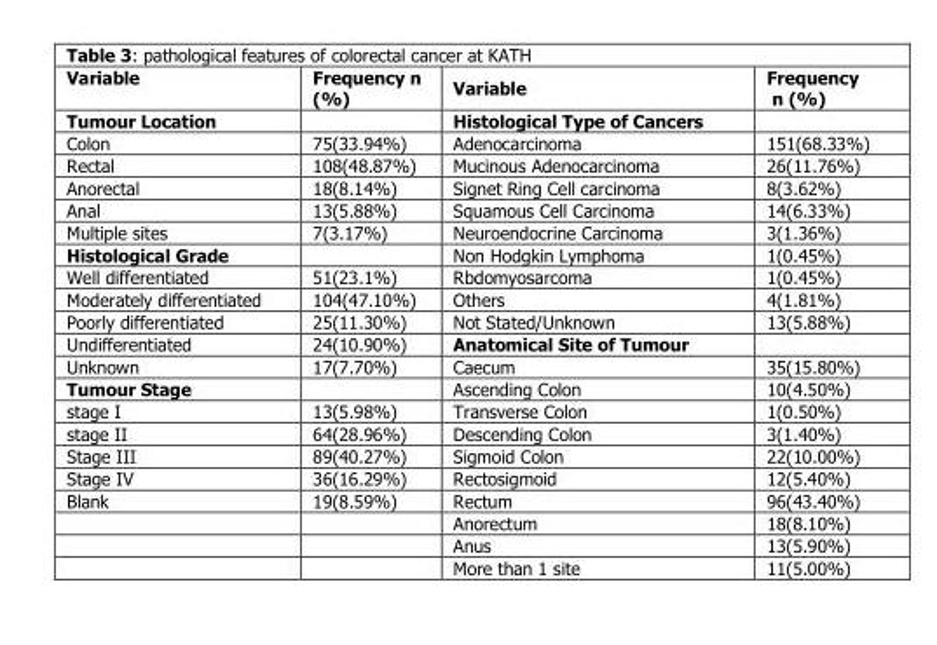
<table><thead><tr><td>Variable</td><td>Frequency n (%)</td><td>Variable</td><td>Frequency n (%)</td></tr></thead><tbody><tr><td>Tumour Location</td><td></td><td>Histological Type of Cancers</td><td></td></tr><tr><td>Colon</td><td>75(33.94%)</td><td>Adenocarcinoma</td><td>151(68.33%)</td></tr><tr><td>Rectal</td><td>108(48.87%)</td><td>Mucinous Adenocarcinoma</td><td>26(11.76%)</td></tr><tr><td>Anorectal</td><td>18(8.14%)</td><td>Signet Ring Cell carcinoma</td><td>8(3.62%)</td></tr><tr><td>Anal</td><td>13(5.88%)</td><td>Squamous Cell Carcinoma</td><td>14(6.33%)</td></tr><tr><td>Multiple sites</td><td>7(3.17%)</td><td>Neuroendocrine Carcinoma</td><td>3(1.36%)</td></tr><tr><td>Histological Grade</td><td></td><td>Non Hodgkin Lymphoma</td><td>1(0.45%)</td></tr><tr><td>Well differentiated</td><td>51(23.1%)</td><td>Rbdomyosarcoma</td><td>1(0.45%)</td></tr><tr><td>Moderately differentiated</td><td>104(47.10%)</td><td>Others</td><td>4(1.81%)</td></tr><tr><td>Poorly differentiated</td><td>25(11.30%)</td><td>Not Stated/Unknown</td><td>13(5.88%)</td></tr><tr><td>Undifferentiated</td><td>24(10.90%)</td><td>Anatomical Site of Tumour</td><td></td></tr><tr><td>Unknown</td><td>17(7.70%)</td><td>Caecum</td><td>35(15.80%)</td></tr><tr><td>Tumour Stage</td><td></td><td>Ascending Colon</td><td>10(4.50%)</td></tr><tr><td>stage I</td><td>13(5.98%)</td><td>Transverse Colon</td><td>1(0.50%)</td></tr><tr><td>stage II</td><td>64(28.96%)</td><td>Descending Colon</td><td>3(1.40%)</td></tr><tr><td>Stage III</td><td>89(40.27%)</td><td>Sigmoid Colon</td><td>22(10.00%)</td></tr><tr><td>Stage IV</td><td>36(16.29%)</td><td>Rectosigmoid</td><td>12(5.40%)</td></tr><tr><td rowspan="4">Blank</td><td>19(8.59%)</td><td>Rectum</td><td>96(43.40%)</td></tr><tr><td></td><td>Anorectum</td><td>18(8.10%)</td></tr><tr><td></td><td>Anus</td><td>13(5.90%)</td></tr><tr><td></td><td>More than 1 site</td><td>11(5.00%)</td></tr></tbody></table>